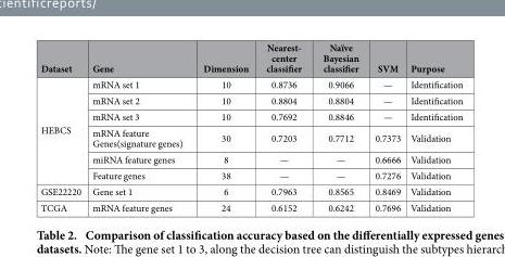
<table><thead><tr><td>Dataset</td><td>Gene</td><td>Dimension</td><td>Nearest- center classifier</td><td>Naïve Bayesian classifier</td><td>SVM</td><td>Purpose</td></tr></thead><tbody><tr><td rowspan="6">HEBCS</td><td>mRNA set 1</td><td>10</td><td>0.8736</td><td>0.9066</td><td>—</td><td>Identification</td></tr><tr><td>mRNA set 2</td><td>10</td><td>0.8804</td><td>0.8804</td><td>—</td><td>Identification</td></tr><tr><td>mRNA set 3</td><td>10</td><td>0.7692</td><td>0.8846</td><td>—</td><td>Identification</td></tr><tr><td>mRNA feature Genes(signature genes)</td><td>30</td><td>0.7203</td><td>0.7712</td><td>0.7373</td><td>Validation</td></tr><tr><td>miRNA feature genes</td><td>8</td><td>—</td><td>—</td><td>0.6666</td><td>Validation</td></tr><tr><td>Feature genes</td><td>38</td><td>—</td><td>—</td><td>0.7276</td><td>Validation</td></tr><tr><td>GSE22220</td><td>Gene set 1</td><td>6</td><td>0.7963</td><td>0.8565</td><td>0.8469</td><td>Validation</td></tr><tr><td>TCGA</td><td>mRNA feature genes</td><td>24</td><td>0.6152</td><td>0.6242</td><td>0.7696</td><td>Validation</td></tr></tbody></table>